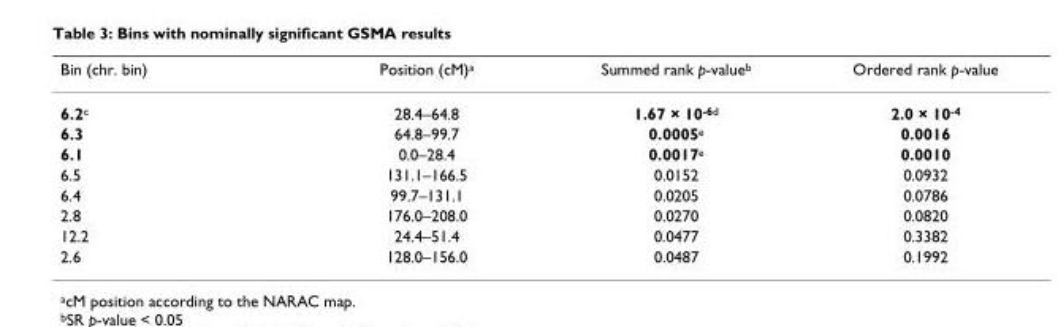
<table><thead><tr><td>Bin (chr. bin)</td><td>Position (cM)<sup>a</sup></td><td>Summed rank p-value<sup>b</sup></td><td>Ordered rank p-value</td></tr></thead><tbody><tr><td>6.2<sup>c</sup></td><td>28.4–64.8</td><td>1.67 × 10<sup>-6d</sup></td><td>2.0 × 10<sup>-4</sup></td></tr><tr><td>6.3</td><td>64.8–99.7</td><td>0.0005<sup>e</sup></td><td>0.0016</td></tr><tr><td>6.1</td><td>0.0–28.4</td><td>0.0017<sup>e</sup></td><td>0.0010</td></tr><tr><td>6.5</td><td>131.1–166.5</td><td>0.0152</td><td>0.0932</td></tr><tr><td>6.4</td><td>99.7–131.1</td><td>0.0205</td><td>0.0786</td></tr><tr><td>2.8</td><td>176.0–208.0</td><td>0.0270</td><td>0.0820</td></tr><tr><td>12.2</td><td>24.4–51.4</td><td>0.0477</td><td>0.3382</td></tr><tr><td>2.6</td><td>128.0–156.0</td><td>0.0487</td><td>0.1992</td></tr></tbody></table>